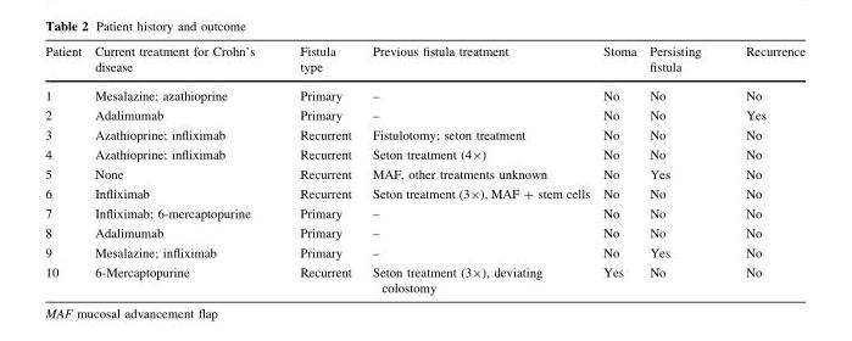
<table><thead><tr><td>Patient</td><td>Current treatment for Crohn’s disease</td><td>Fistula type</td><td>Previous fistula treatment</td><td>Stoma</td><td>Persisting fistula</td><td>Recurrence</td></tr></thead><tbody><tr><td>1</td><td>Mesalazine; azathioprine</td><td>Primary</td><td>–</td><td>No</td><td>No</td><td>No</td></tr><tr><td>2</td><td>Adalimumab</td><td>Primary</td><td>–</td><td>No</td><td>No</td><td>Yes</td></tr><tr><td>3</td><td>Azathioprine; infliximab</td><td>Recurrent</td><td>Fistulotomy; seton treatment</td><td>No</td><td>No</td><td>No</td></tr><tr><td>4</td><td>Azathioprine; infliximab</td><td>Recurrent</td><td>Seton treatment (4×)</td><td>No</td><td>No</td><td>No</td></tr><tr><td>5</td><td>None</td><td>Recurrent</td><td>MAF, other treatments unknown</td><td>No</td><td>Yes</td><td>No</td></tr><tr><td>6</td><td>Infliximab</td><td>Recurrent</td><td>Seton treatment (3×), MAF + stem cells</td><td>No</td><td>No</td><td>No</td></tr><tr><td>7</td><td>Infliximab; 6-mercaptopurine</td><td>Primary</td><td>–</td><td>No</td><td>No</td><td>No</td></tr><tr><td>8</td><td>Adalimumab</td><td>Primary</td><td>–</td><td>No</td><td>No</td><td>No</td></tr><tr><td>9</td><td>Mesalazine; infliximab</td><td>Primary</td><td>–</td><td>No</td><td>Yes</td><td>No</td></tr><tr><td>10</td><td>6-Mercaptopurine</td><td>Recurrent</td><td>Seton treatment (3×), deviating colostomy</td><td>Yes</td><td>No</td><td>No</td></tr></tbody></table>